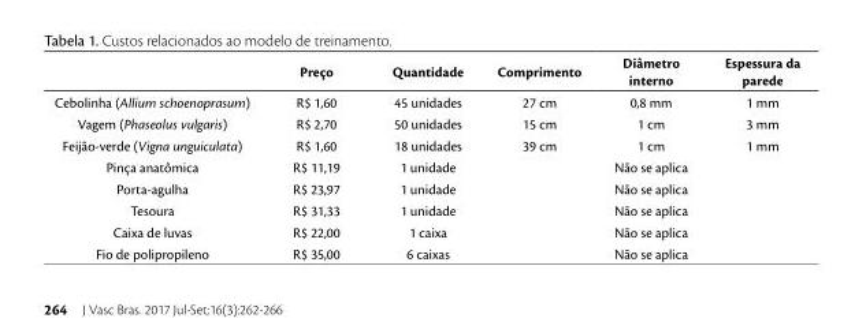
<table><thead><tr><td></td><td>Preço</td><td>Quantidade</td><td>Comprimento</td><td>Diâmetro interno</td><td>Espessura da parede</td></tr></thead><tbody><tr><td>Cebolinha (Allium schoenoprasum)</td><td>R$ 1,60</td><td>45 unidades</td><td>27 cm</td><td>0,8 mm</td><td>1 mm</td></tr><tr><td>Vagem (Phaseolus vulgaris)</td><td>R$ 2,70</td><td>50 unidades</td><td>15 cm</td><td>1 cm</td><td>3 mm</td></tr><tr><td>Feijão-verde (Vigna unguiculata)</td><td>R$ 1,60</td><td>18 unidades</td><td>39 cm</td><td>1 cm</td><td>1 mm</td></tr><tr><td>Pinça anatômica</td><td>R$ 11,19</td><td>1 unidade</td><td colspan="3">Não se aplica</td></tr><tr><td>Porta-agulha</td><td>R$ 23,97</td><td>1 unidade</td><td colspan="3">Não se aplica</td></tr><tr><td>Tesoura</td><td>R$ 31,33</td><td>1 unidade</td><td colspan="3">Não se aplica</td></tr><tr><td>Caixa de luvas</td><td>R$ 22,00</td><td>1 caixa</td><td colspan="3">Não se aplica</td></tr><tr><td>Fio de polipropileno</td><td>R$ 35,00</td><td>6 caixas</td><td colspan="3">Não se aplica</td></tr></tbody></table>